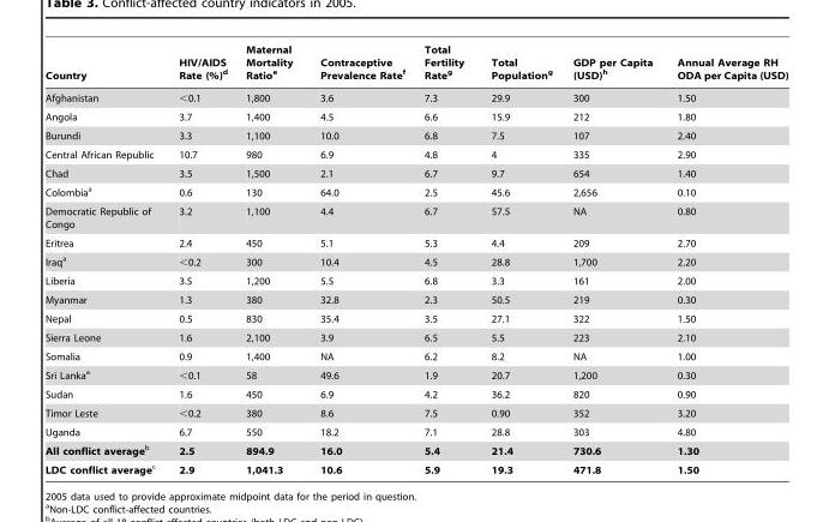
<table><thead><tr><td>Country</td><td>HIV/AIDS Rate (%)<sup>d</sup></td><td>Maternal Mortality Ratio<sup>e</sup></td><td>Contraceptive Prevalence Rate<sup>f</sup></td><td>Total Fertility Rate<sup>g</sup></td><td>Total Population<sup>g</sup></td><td>GDP per Capita (USD)<sup>h</sup></td><td>Annual Average RH ODA per Capita (USD)</td></tr></thead><tbody><tr><td>Afghanistan</td><td>&lt;0.1</td><td>1,800</td><td>3.6</td><td>7.3</td><td>29.9</td><td>300</td><td>1.50</td></tr><tr><td>Angola</td><td>3.7</td><td>1,400</td><td>4.5</td><td>6.6</td><td>15.9</td><td>212</td><td>1.80</td></tr><tr><td>Burundi</td><td>3.3</td><td>1,100</td><td>10.0</td><td>6.8</td><td>7.5</td><td>107</td><td>2.40</td></tr><tr><td>Central African Republic</td><td>10.7</td><td>980</td><td>6.9</td><td>4.8</td><td>4</td><td>335</td><td>2.90</td></tr><tr><td>Chad</td><td>3.5</td><td>1,500</td><td>2.1</td><td>6.7</td><td>9.7</td><td>654</td><td>1.40</td></tr><tr><td>Colombia<sup>a</sup></td><td>0.6</td><td>130</td><td>64.0</td><td>2.5</td><td>45.6</td><td>2,656</td><td>0.10</td></tr><tr><td>Democratic Republic of Congo</td><td>3.2</td><td>1,100</td><td>4.4</td><td>6.7</td><td>57.5</td><td>NA</td><td>0.80</td></tr><tr><td>Eritrea</td><td>2.4</td><td>450</td><td>5.1</td><td>5.3</td><td>4.4</td><td>209</td><td>2.70</td></tr><tr><td>Iraq<sup>a</sup></td><td>&lt;0.2</td><td>300</td><td>10.4</td><td>4.5</td><td>28.8</td><td>1,700</td><td>2.20</td></tr><tr><td>Liberia</td><td>3.5</td><td>1,200</td><td>5.5</td><td>6.8</td><td>3.3</td><td>161</td><td>2.00</td></tr><tr><td>Myanmar</td><td>1.3</td><td>380</td><td>32.8</td><td>2.3</td><td>50.5</td><td>219</td><td>0.30</td></tr><tr><td>Nepal</td><td>0.5</td><td>830</td><td>35.4</td><td>3.5</td><td>27.1</td><td>322</td><td>1.50</td></tr><tr><td>Sierra Leone</td><td>1.6</td><td>2,100</td><td>3.9</td><td>6.5</td><td>5.5</td><td>223</td><td>2.10</td></tr><tr><td>Somalia</td><td>0.9</td><td>1,400</td><td>NA</td><td>6.2</td><td>8.2</td><td>NA</td><td>1.00</td></tr><tr><td>Sri Lanka<sup>a</sup></td><td>&lt;0.1</td><td>58</td><td>49.6</td><td>1.9</td><td>20.7</td><td>1,200</td><td>0.30</td></tr><tr><td>Sudan</td><td>1.6</td><td>450</td><td>6.9</td><td>4.2</td><td>36.2</td><td>820</td><td>0.90</td></tr><tr><td>Timor Leste</td><td>&lt;0.2</td><td>380</td><td>8.6</td><td>7.5</td><td>0.90</td><td>352</td><td>3.20</td></tr><tr><td>Uganda</td><td>6.7</td><td>550</td><td>18.2</td><td>7.1</td><td>28.8</td><td>303</td><td>4.80</td></tr><tr><td>All conflict averageb</td><td>2.5</td><td>894.9</td><td>16.0</td><td>5.4</td><td>21.4</td><td>730.6</td><td>1.30</td></tr><tr><td>LDC conflict averagec</td><td>2.9</td><td>1,041.3</td><td>10.6</td><td>5.9</td><td>19.3</td><td>471.8</td><td>1.50</td></tr></tbody></table>